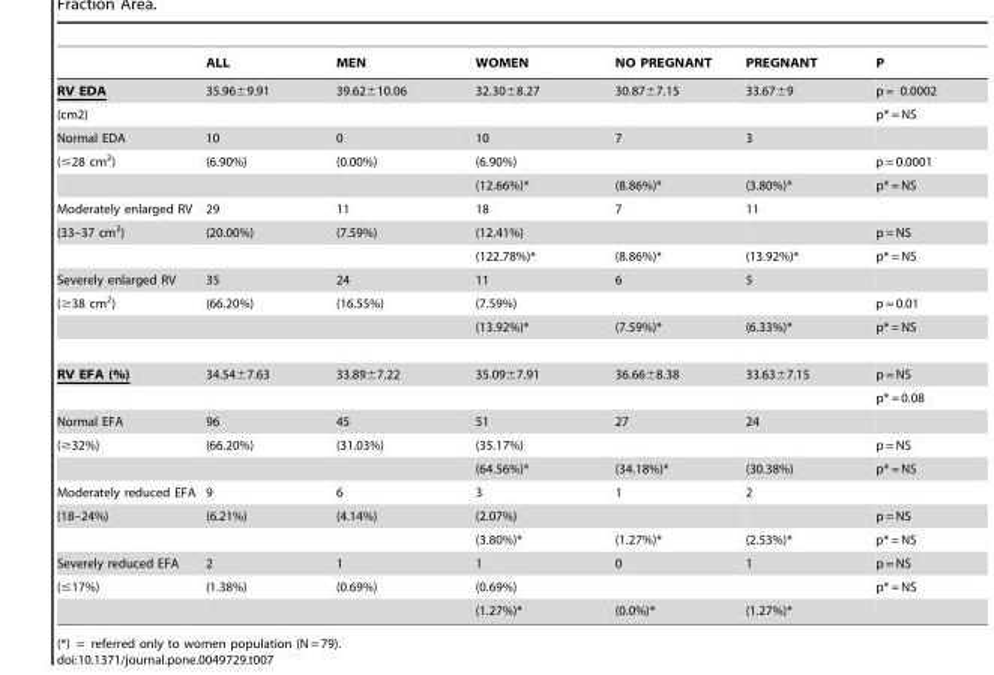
<table><thead><tr><td></td><td>ALL</td><td>MEN</td><td>WOMEN</td><td>NO PREGNANT</td><td>PREGNANT</td><td>P</td></tr></thead><tbody><tr><td>RV EDA</td><td>35.96±9.91</td><td>39.62±10.06</td><td>32.30±8.27</td><td>30.87±7.15</td><td>33.67±9</td><td>p = 0.0002</td></tr><tr><td>(cm2)</td><td></td><td></td><td></td><td></td><td></td><td>p* = NS</td></tr><tr><td>Normal EDA</td><td>10</td><td>0</td><td>10</td><td>7</td><td>3</td><td></td></tr><tr><td rowspan="2">(≤28 cm<sup>2</sup>)</td><td>(6.90%)</td><td>(0.00%)</td><td>(6.90%)</td><td></td><td></td><td>p = 0.0001</td></tr><tr><td></td><td></td><td>(12.66%)*</td><td>(8.86%)*</td><td>(3.80%)*</td><td>p* = NS</td></tr><tr><td>Moderately enlarged RV</td><td>29</td><td>11</td><td>18</td><td>7</td><td>11</td><td></td></tr><tr><td rowspan="2">(33–37 cm<sup>2</sup>)</td><td>(20.00%)</td><td>(7.59%)</td><td>(12.41%)</td><td></td><td></td><td>p = NS</td></tr><tr><td></td><td></td><td>(122.78%)*</td><td>(8.86%)*</td><td>(13.92%)*</td><td>p* = NS</td></tr><tr><td>Severely enlarged RV</td><td>35</td><td>24</td><td>11</td><td>6</td><td>5</td><td></td></tr><tr><td rowspan="2">(≥38 cm<sup>2</sup>)</td><td>(66.20%)</td><td>(16.55%)</td><td>(7.59%)</td><td></td><td></td><td>p = 0.01</td></tr><tr><td></td><td></td><td>(13.92%)*</td><td>(7.59%)*</td><td>(6.33%)*</td><td>p* = NS</td></tr><tr><td rowspan="2">RV EFA (%)</td><td>34.54±7.63</td><td>33.89±7.22</td><td>35.09±7.91</td><td>36.66±8.38</td><td>33.63±7.15</td><td>p = NS</td></tr><tr><td></td><td></td><td></td><td></td><td></td><td>p* = 0.08</td></tr><tr><td>Normal EFA</td><td>96</td><td>45</td><td>51</td><td>27</td><td>24</td><td></td></tr><tr><td rowspan="2">(≥32%)</td><td>(66.20%)</td><td>(31.03%)</td><td>(35.17%)</td><td></td><td></td><td>p = NS</td></tr><tr><td></td><td></td><td>(64.56%)*</td><td>(34.18%)*</td><td>(30.38%)</td><td>p* = NS</td></tr><tr><td>Moderately reduced EFA</td><td>9</td><td>6</td><td>3</td><td>1</td><td>2</td><td></td></tr><tr><td rowspan="2">(18–24%)</td><td>(6.21%)</td><td>(4.14%)</td><td>(2.07%)</td><td></td><td></td><td>p = NS</td></tr><tr><td></td><td></td><td>(3.80%)*</td><td>(1.27%)*</td><td>(2.53%)*</td><td>p* = NS</td></tr><tr><td>Severely reduced EFA</td><td>2</td><td>1</td><td>1</td><td>0</td><td>1</td><td>p = NS</td></tr><tr><td rowspan="2">(≤17%)</td><td>(1.38%)</td><td>(0.69%)</td><td>(0.69%)</td><td></td><td></td><td>p* = NS</td></tr><tr><td></td><td></td><td>(1.27%)*</td><td>(0.0%)*</td><td>(1.27%)*</td><td></td></tr></tbody></table>